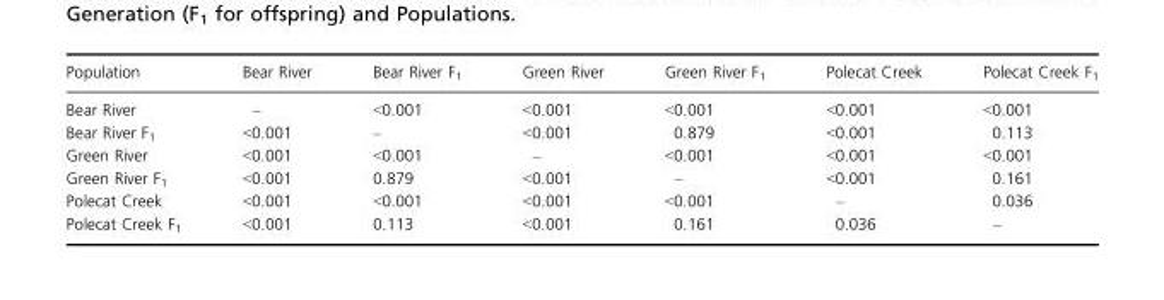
<table><thead><tr><td>Population</td><td>Bear River</td><td>Bear River F<sub>1</sub></td><td>Green River</td><td>Green River F<sub>1</sub></td><td>Polecat Creek</td><td>Polecat Creek F<sub>1</sub></td></tr></thead><tbody><tr><td>Bear River</td><td>–</td><td>&lt;0.001</td><td>&lt;0.001</td><td>&lt;0.001</td><td>&lt;0.001</td><td>&lt;0.001</td></tr><tr><td>Bear River F<sub>1</sub></td><td>&lt;0.001</td><td>–</td><td>&lt;0.001</td><td>0.879</td><td>&lt;0.001</td><td>0.113</td></tr><tr><td>Green River</td><td>&lt;0.001</td><td>&lt;0.001</td><td>–</td><td>&lt;0.001</td><td>&lt;0.001</td><td>&lt;0.001</td></tr><tr><td>Green River F<sub>1</sub></td><td>&lt;0.001</td><td>0.879</td><td>&lt;0.001</td><td>–</td><td>&lt;0.001</td><td>0.161</td></tr><tr><td>Polecat Creek</td><td>&lt;0.001</td><td>&lt;0.001</td><td>&lt;0.001</td><td>&lt;0.001</td><td>–</td><td>0.036</td></tr><tr><td>Polecat Creek F<sub>1</sub></td><td>&lt;0.001</td><td>0.113</td><td>&lt;0.001</td><td>0.161</td><td>0.036</td><td>–</td></tr></tbody></table>